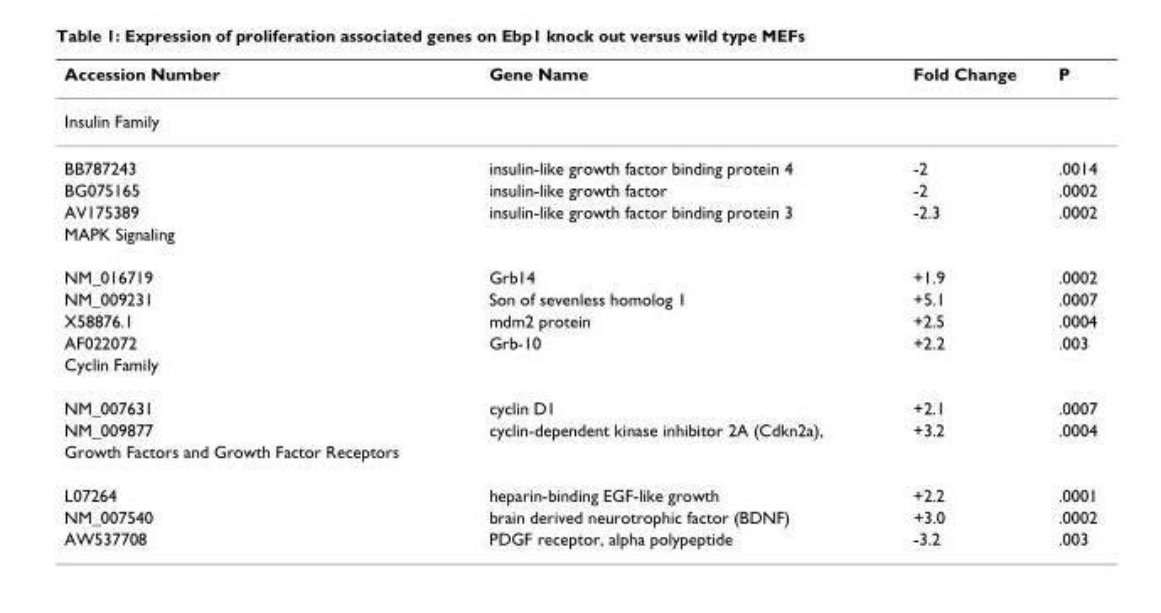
<table><thead><tr><td>Accession Number</td><td>Gene Name</td><td>Fold Change</td><td>P</td></tr></thead><tbody><tr><td colspan="4">Insulin Family</td></tr><tr><td>BB787243</td><td>insulin-like growth factor binding protein 4</td><td>-2</td><td>.0014</td></tr><tr><td>BG075165</td><td>insulin-like growth factor</td><td>-2</td><td>.0002</td></tr><tr><td>AV175389</td><td>insulin-like growth factor binding protein 3</td><td>-2.3</td><td>.0002</td></tr><tr><td colspan="4">MAPK Signaling</td></tr><tr><td>NM_016719</td><td>Grb14</td><td>+1.9</td><td>.0002</td></tr><tr><td>NM_009231</td><td>Son of sevenless homolog 1</td><td>+5.1</td><td>.0007</td></tr><tr><td>X58876.1</td><td>mdm2 protein</td><td>+2.5</td><td>.0004</td></tr><tr><td>AF022072</td><td>Grb-10</td><td>+2.2</td><td>.003</td></tr><tr><td colspan="4">Cyclin Family</td></tr><tr><td>NM_007631</td><td>cyclin D1</td><td>+2.1</td><td>.0007</td></tr><tr><td>NM_009877</td><td>cyclin-dependent kinase inhibitor 2A (Cdkn2a),</td><td>+3.2</td><td>.0004</td></tr><tr><td colspan="4">Growth Factors and Growth Factor Receptors</td></tr><tr><td>L07264</td><td>heparin-binding EGF-like growth</td><td>+2.2</td><td>.0001</td></tr><tr><td>NM_007540</td><td>brain derived neurotrophic factor (BDNF)</td><td>+3.0</td><td>.0002</td></tr><tr><td>AW537708</td><td>PDGF receptor, alpha polypeptide</td><td>-3.2</td><td>.003</td></tr></tbody></table>